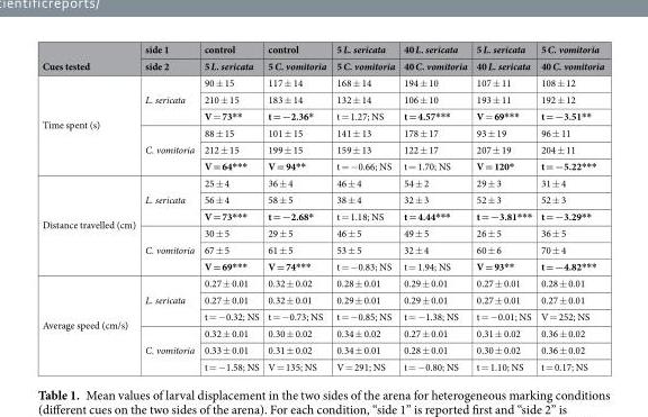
<table><thead><tr><td rowspan="2">Cues tested</td><td rowspan="2">side 1 side 2</td><td rowspan="2">control 5 L. sericata</td><td rowspan="2">control 5 C. vomitoria</td><td rowspan="2">5 L. sericata 5 C. vomitoria</td><td rowspan="2">40 L. sericata 40 C. vomitoria</td><td rowspan="2">5 L. sericata 40 L. sericata</td><td rowspan="2">5 C. vomitoria 40 C. vomitoria</td></tr><tr></tr></thead><tbody><tr><td rowspan="6">Time spent (s)</td><td rowspan="3">L. sericata</td><td>90 ± 15</td><td>117 ± 14</td><td>168 ± 14</td><td>194 ± 10</td><td>107 ± 11</td><td>108 ± 12</td></tr><tr><td>210 ± 15</td><td>183 ± 14</td><td>132 ± 14</td><td>106 ± 10</td><td>193 ± 11</td><td>192 ± 12</td></tr><tr><td>V = 73**</td><td>t = −2.36*</td><td>t = 1.27; NS</td><td>t = 4.57***</td><td>V = 69***</td><td>t = −3.51**</td></tr><tr><td rowspan="3">C. vomitoria</td><td>88 ± 15</td><td>101 ± 15</td><td>141 ± 13</td><td>178 ± 17</td><td>93 ± 19</td><td>96 ± 11</td></tr><tr><td>212 ± 15</td><td>199 ± 15</td><td>159 ± 13</td><td>122 ± 17</td><td>207 ± 19</td><td>204 ± 11</td></tr><tr><td>V = 64***</td><td>V = 94**</td><td>t = −0.66; NS</td><td>t = 1.70; NS</td><td>V = 120*</td><td>t = −5.22***</td></tr><tr><td rowspan="6">Distance travelled (cm)</td><td rowspan="3">L. sericata</td><td>25 ± 4</td><td>36 ± 4</td><td>46 ± 4</td><td>54 ± 2</td><td>29 ± 3</td><td>31 ± 4</td></tr><tr><td>56 ± 4</td><td>58 ± 5</td><td>38 ± 4</td><td>32 ± 3</td><td>52 ± 3</td><td>52 ± 3</td></tr><tr><td>V = 73***</td><td>t = −2.68*</td><td>t = 1.18; NS</td><td>t = 4.44***</td><td>t = −3.81***</td><td>t = −3.29**</td></tr><tr><td rowspan="3">C. vomitoria</td><td>30 ± 5</td><td>29 ± 5</td><td>46 ± 5</td><td>49 ± 5</td><td>26 ± 5</td><td>36 ± 5</td></tr><tr><td>67 ± 5</td><td>61 ± 5</td><td>53 ± 5</td><td>32 ± 4</td><td>60 ± 6</td><td>70 ± 4</td></tr><tr><td>V = 69***</td><td>V = 74***</td><td>t = −0.83; NS</td><td>t = 1.94; NS</td><td>V = 93**</td><td>t = −4.82***</td></tr><tr><td rowspan="6">Average speed (cm/s)</td><td rowspan="3">L. sericata</td><td>0.27 ± 0.01</td><td>0.32 ± 0.02</td><td>0.28 ± 0.01</td><td>0.29 ± 0.01</td><td>0.27 ± 0.01</td><td>0.28 ± 0.01</td></tr><tr><td>0.27 ± 0.01</td><td>0.32 ± 0.01</td><td>0.29 ± 0.01</td><td>0.29 ± 0.01</td><td>0.27 ± 0.01</td><td>0.27 ± 0.01</td></tr><tr><td>t = −0.32; NS</td><td>t = −0.73; NS</td><td>t = −0.85; NS</td><td>t = −1.38; NS</td><td>t = −0.01; NS</td><td>V = 252; NS</td></tr><tr><td rowspan="3">C. vomitoria</td><td>0.32 ± 0.01</td><td>0.30 ± 0.02</td><td>0.34 ± 0.02</td><td>0.27 ± 0.01</td><td>0.31 ± 0.02</td><td>0.36 ± 0.02</td></tr><tr><td>0.33 ± 0.01</td><td>0.31 ± 0.02</td><td>0.34 ± 0.01</td><td>0.28 ± 0.01</td><td>0.30 ± 0.02</td><td>0.36 ± 0.02</td></tr><tr><td>t = −1.58; NS</td><td>V = 135; NS</td><td>V = 291; NS</td><td>t = −0.80; NS</td><td>t = 1.10; NS</td><td>t = 0.17; NS</td></tr></tbody></table>